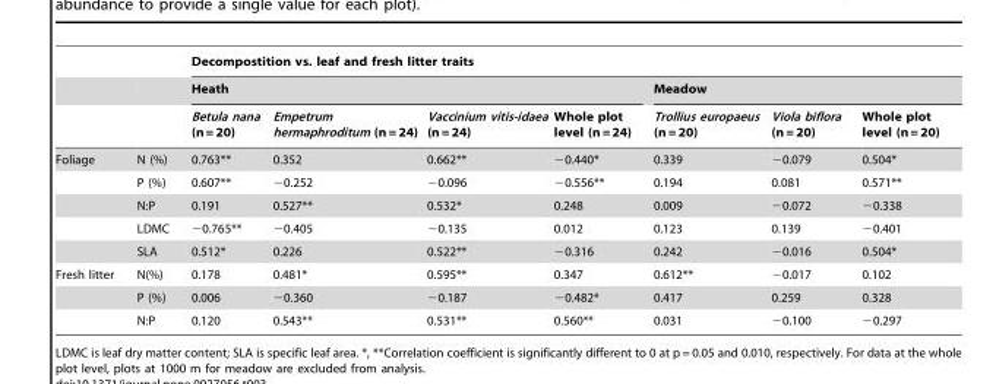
<table><thead><tr><td rowspan="3"></td><td rowspan="3"></td><td colspan="7">Decompostition vs. leaf and fresh litter traits</td></tr><tr><td colspan="4">Heath</td><td colspan="3">Meadow</td></tr><tr><td>Betula nana (n = 20)</td><td>Empetrum hermaphroditum (n = 24)</td><td>Vaccinium vitis-idaea (n = 24)</td><td>Whole plot level (n = 24)</td><td>Trollius europaeus (n = 20)</td><td>Viola biflora (n = 20)</td><td>Whole plot level (n = 20)</td></tr></thead><tbody><tr><td rowspan="5">Foliage</td><td>N (%)</td><td>0.763**</td><td>0.352</td><td>0.662**</td><td>−0.440*</td><td>0.339</td><td>−0.079</td><td>0.504*</td></tr><tr><td>P (%)</td><td>0.607**</td><td>−0.252</td><td>−0.096</td><td>−0.556**</td><td>0.194</td><td>0.081</td><td>0.571**</td></tr><tr><td>N:P</td><td>0.191</td><td>0.527**</td><td>0.532*</td><td>0.248</td><td>0.009</td><td>−0.072</td><td>−0.338</td></tr><tr><td>LDMC</td><td>−0.765**</td><td>−0.405</td><td>−0.135</td><td>0.012</td><td>0.123</td><td>0.139</td><td>−0.401</td></tr><tr><td>SLA</td><td>0.512*</td><td>0.226</td><td>0.522**</td><td>−0.316</td><td>0.242</td><td>−0.016</td><td>0.504*</td></tr><tr><td rowspan="3">Fresh litter</td><td>N(%)</td><td>0.178</td><td>0.481*</td><td>0.595**</td><td>0.347</td><td>0.612**</td><td>−0.017</td><td>0.102</td></tr><tr><td>P (%)</td><td>0.006</td><td>−0.360</td><td>−0.187</td><td>−0.482*</td><td>0.417</td><td>0.259</td><td>0.328</td></tr><tr><td>N:P</td><td>0.120</td><td>0.543**</td><td>0.531**</td><td>0.560**</td><td>0.031</td><td>−0.100</td><td>−0.297</td></tr></tbody></table>